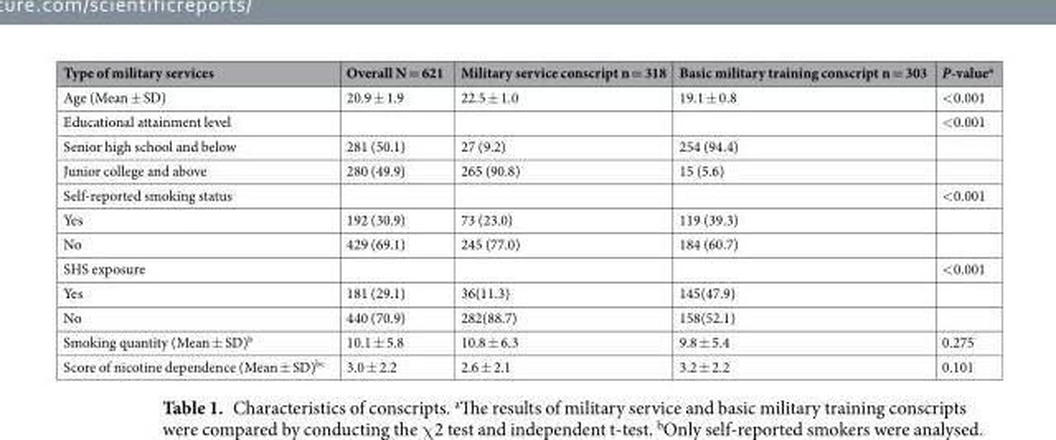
<table><thead><tr><td>Type of military services</td><td>Overall N = 621</td><td>Military service conscript n = 318</td><td>Basic military training conscript n = 303</td><td>P-value<sup>a</sup></td></tr></thead><tbody><tr><td>Age (Mean ± SD)</td><td>20.9 ± 1.9</td><td>22.5 ± 1.0</td><td>19.1 ± 0.8</td><td>&lt;0.001</td></tr><tr><td>Educational attainment level</td><td></td><td></td><td></td><td>&lt;0.001</td></tr><tr><td>Senior high school and below</td><td>281 (50.1)</td><td>27 (9.2)</td><td>254 (94.4)</td><td></td></tr><tr><td>Junior college and above</td><td>280 (49.9)</td><td>265 (90.8)</td><td>15 (5.6)</td><td></td></tr><tr><td>Self-reported smoking status</td><td></td><td></td><td></td><td>&lt;0.001</td></tr><tr><td>Yes</td><td>192 (30.9)</td><td>73 (23.0)</td><td>119 (39.3)</td><td></td></tr><tr><td>No</td><td>429 (69.1)</td><td>245 (77.0)</td><td>184 (60.7)</td><td></td></tr><tr><td>SHS exposure</td><td></td><td></td><td></td><td>&lt;0.001</td></tr><tr><td>Yes</td><td>181 (29.1)</td><td>36(11.3)</td><td>145(47.9)</td><td></td></tr><tr><td>No</td><td>440 (70.9)</td><td>282(88.7)</td><td>158(52.1)</td><td></td></tr><tr><td>Smoking quantity (Mean ± SD)<sup>b</sup></td><td>10.1 ± 5.8</td><td>10.8 ± 6.3</td><td>9.8 ± 5.4</td><td>0.275</td></tr><tr><td>Score of nicotine dependence (Mean ± SD)<sup>bc</sup></td><td>3.0 ± 2.2</td><td>2.6 ± 2.1</td><td>3.2 ± 2.2</td><td>0.101</td></tr></tbody></table>